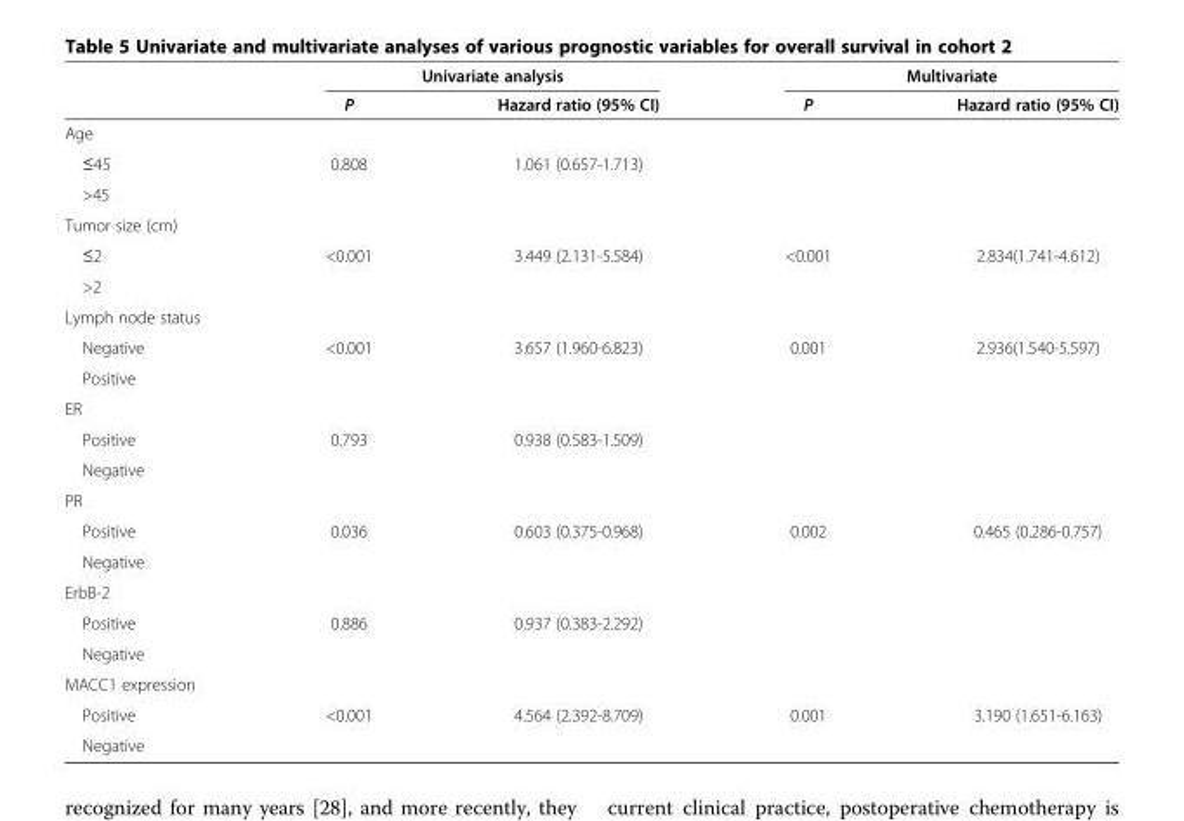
<table><thead><tr><td rowspan="2"></td><td colspan="2">Univariate analysis</td><td colspan="2">Multivariate</td></tr><tr><td>P</td><td>Hazard ratio (95% CI)</td><td>P</td><td>Hazard ratio (95% CI)</td></tr></thead><tbody><tr><td colspan="5">Age</td></tr><tr><td>≤45</td><td>0.808</td><td>1.061 (0.657-1.713)</td><td></td><td></td></tr><tr><td colspan="5">&gt;45</td></tr><tr><td colspan="5">Tumor size (cm)</td></tr><tr><td>≤2</td><td rowspan="2">&lt;0.001</td><td rowspan="2">3.449 (2.131-5.584)</td><td rowspan="2">&lt;0.001</td><td rowspan="2">2.834(1.741-4.612)</td></tr><tr><td>&gt;2</td></tr><tr><td colspan="5">Lymph node status</td></tr><tr><td>Negative</td><td rowspan="2">&lt;0.001</td><td rowspan="2">3.657 (1.960-6.823)</td><td rowspan="2">0.001</td><td rowspan="2">2.936(1.540-5.597)</td></tr><tr><td>Positive</td></tr><tr><td colspan="5">ER</td></tr><tr><td>Positive</td><td rowspan="2">0.793</td><td rowspan="2">0.938 (0.583-1.509)</td><td rowspan="2"></td><td rowspan="2"></td></tr><tr><td>Negative</td></tr><tr><td colspan="5">PR</td></tr><tr><td>Positive</td><td rowspan="2">0.036</td><td rowspan="2">0.603 (0.375-0.968)</td><td rowspan="2">0.002</td><td rowspan="2">0.465 (0.286-0.757)</td></tr><tr><td>Negative</td></tr><tr><td colspan="5">ErbB-2</td></tr><tr><td>Positive</td><td rowspan="2">0.886</td><td rowspan="2">0.937 (0.383-2.292)</td><td rowspan="2"></td><td rowspan="2"></td></tr><tr><td>Negative</td></tr><tr><td colspan="5">MACC1 expression</td></tr><tr><td>Positive</td><td rowspan="2">&lt;0.001</td><td rowspan="2">4.564 (2.392-8.709)</td><td rowspan="2">0.001</td><td rowspan="2">3.190 (1.651-6.163)</td></tr><tr><td>Negative</td></tr></tbody></table>